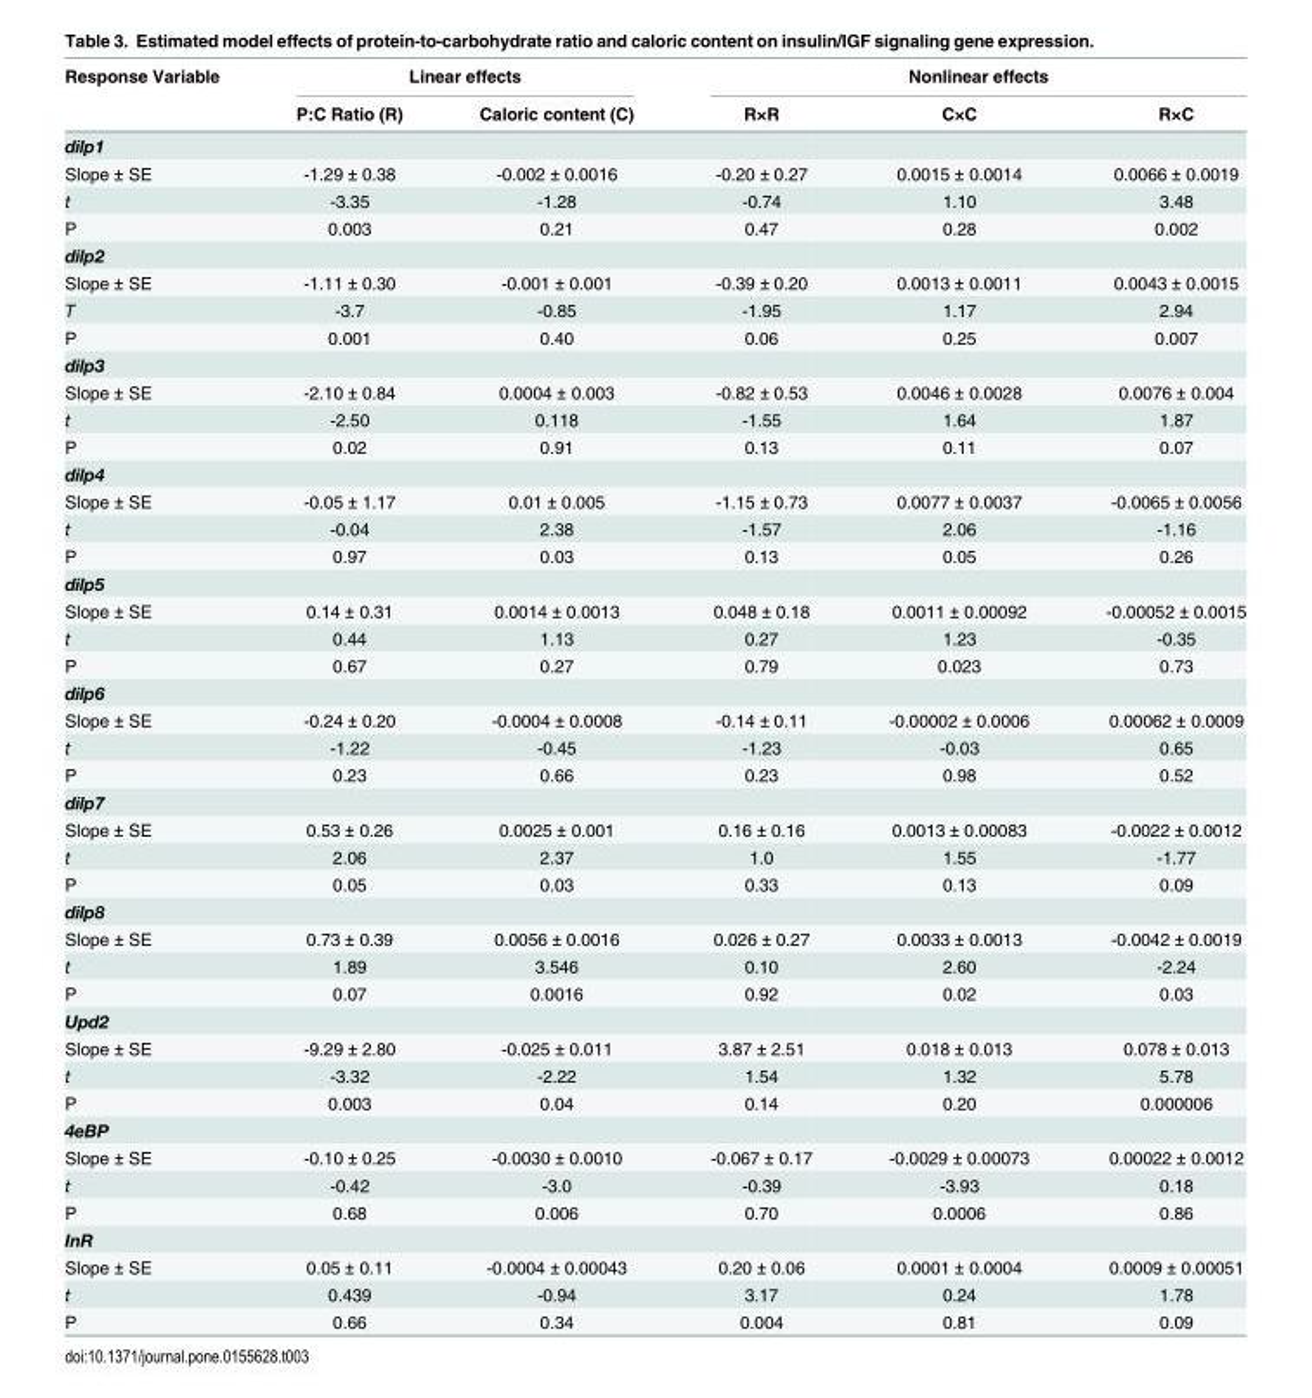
<table><thead><tr><td rowspan="2">Response Variable</td><td colspan="2">Linear effects</td><td colspan="3">Nonlinear effects</td></tr><tr><td>P:C Ratio (R)</td><td>Caloric content (C)</td><td>R×R</td><td>C×C</td><td>R×C</td></tr></thead><tbody><tr><td colspan="6">dilp1</td></tr><tr><td>Slope ± SE</td><td>-1.29 ± 0.38</td><td>-0.002 ± 0.0016</td><td>-0.20 ± 0.27</td><td>0.0015 ± 0.0014</td><td>0.0066 ± 0.0019</td></tr><tr><td>t</td><td>-3.35</td><td>-1.28</td><td>-0.74</td><td>1.10</td><td>3.48</td></tr><tr><td>P</td><td>0.003</td><td>0.21</td><td>0.47</td><td>0.28</td><td>0.002</td></tr><tr><td colspan="6">dilp2</td></tr><tr><td>Slope ± SE</td><td>-1.11 ± 0.30</td><td>-0.001 ± 0.001</td><td>-0.39 ± 0.20</td><td>0.0013 ± 0.0011</td><td>0.0043 ± 0.0015</td></tr><tr><td>T</td><td>-3.7</td><td>-0.85</td><td>-1.95</td><td>1.17</td><td>2.94</td></tr><tr><td>P</td><td>0.001</td><td>0.40</td><td>0.06</td><td>0.25</td><td>0.007</td></tr><tr><td colspan="6">dilp3</td></tr><tr><td>Slope ± SE</td><td>-2.10 ± 0.84</td><td>0.0004 ± 0.003</td><td>-0.82 ± 0.53</td><td>0.0046 ± 0.0028</td><td>0.0076 ± 0.004</td></tr><tr><td>t</td><td>-2.50</td><td>0.118</td><td>-1.55</td><td>1.64</td><td>1.87</td></tr><tr><td>P</td><td>0.02</td><td>0.91</td><td>0.13</td><td>0.11</td><td>0.07</td></tr><tr><td colspan="6">dilp4</td></tr><tr><td>Slope ± SE</td><td>-0.05 ± 1.17</td><td>0.01 ± 0.005</td><td>-1.15 ± 0.73</td><td>0.0077 ± 0.0037</td><td>-0.0065 ± 0.0056</td></tr><tr><td>t</td><td>-0.04</td><td>2.38</td><td>-1.57</td><td>2.06</td><td>-1.16</td></tr><tr><td>P</td><td>0.97</td><td>0.03</td><td>0.13</td><td>0.05</td><td>0.26</td></tr><tr><td colspan="6">dilp5</td></tr><tr><td>Slope ± SE</td><td>0.14 ± 0.31</td><td>0.0014 ± 0.0013</td><td>0.048 ± 0.18</td><td>0.0011 ± 0.00092</td><td>-0.00052 ± 0.0015</td></tr><tr><td>t</td><td>0.44</td><td>1.13</td><td>0.27</td><td>1.23</td><td>-0.35</td></tr><tr><td>P</td><td>0.67</td><td>0.27</td><td>0.79</td><td>0.023</td><td>0.73</td></tr><tr><td colspan="6">dilp6</td></tr><tr><td>Slope ± SE</td><td>-0.24 ± 0.20</td><td>-0.0004 ± 0.0008</td><td>-0.14 ± 0.11</td><td>-0.00002 ± 0.0006</td><td>0.00062 ± 0.0009</td></tr><tr><td>t</td><td>-1.22</td><td>-0.45</td><td>-1.23</td><td>-0.03</td><td>0.65</td></tr><tr><td>P</td><td>0.23</td><td>0.66</td><td>0.23</td><td>0.98</td><td>0.52</td></tr><tr><td colspan="6">dilp7</td></tr><tr><td>Slope ± SE</td><td>0.53 ± 0.26</td><td>0.0025 ± 0.001</td><td>0.16 ± 0.16</td><td>0.0013 ± 0.00083</td><td>-0.0022 ± 0.0012</td></tr><tr><td>t</td><td>2.06</td><td>2.37</td><td>1.0</td><td>1.55</td><td>-1.77</td></tr><tr><td>P</td><td>0.05</td><td>0.03</td><td>0.33</td><td>0.13</td><td>0.09</td></tr><tr><td colspan="6">dilp8</td></tr><tr><td>Slope ± SE</td><td>0.73 ± 0.39</td><td>0.0056 ± 0.0016</td><td>0.026 ± 0.27</td><td>0.0033 ± 0.0013</td><td>-0.0042 ± 0.0019</td></tr><tr><td>t</td><td>1.89</td><td>3.546</td><td>0.10</td><td>2.60</td><td>-2.24</td></tr><tr><td>P</td><td>0.07</td><td>0.0016</td><td>0.92</td><td>0.02</td><td>0.03</td></tr><tr><td colspan="6">Upd2</td></tr><tr><td>Slope ± SE</td><td>-9.29 ± 2.80</td><td>-0.025 ± 0.011</td><td>3.87 ± 2.51</td><td>0.018 ± 0.013</td><td>0.078 ± 0.013</td></tr><tr><td>t</td><td>-3.32</td><td>-2.22</td><td>1.54</td><td>1.32</td><td>5.78</td></tr><tr><td>P</td><td>0.003</td><td>0.04</td><td>0.14</td><td>0.20</td><td>0.000006</td></tr><tr><td colspan="6">4eBP</td></tr><tr><td>Slope ± SE</td><td>-0.10 ± 0.25</td><td>-0.0030 ± 0.0010</td><td>-0.067 ± 0.17</td><td>-0.0029 ± 0.00073</td><td>0.00022 ± 0.0012</td></tr><tr><td>t</td><td>-0.42</td><td>-3.0</td><td>-0.39</td><td>-3.93</td><td>0.18</td></tr><tr><td>P</td><td>0.68</td><td>0.006</td><td>0.70</td><td>0.0006</td><td>0.86</td></tr><tr><td colspan="6">InR</td></tr><tr><td>Slope ± SE</td><td>0.05 ± 0.11</td><td>-0.0004 ± 0.00043</td><td>0.20 ± 0.06</td><td>0.0001 ± 0.0004</td><td>0.0009 ± 0.00051</td></tr><tr><td>t</td><td>0.439</td><td>-0.94</td><td>3.17</td><td>0.24</td><td>1.78</td></tr><tr><td>P</td><td>0.66</td><td>0.34</td><td>0.004</td><td>0.81</td><td>0.09</td></tr></tbody></table>